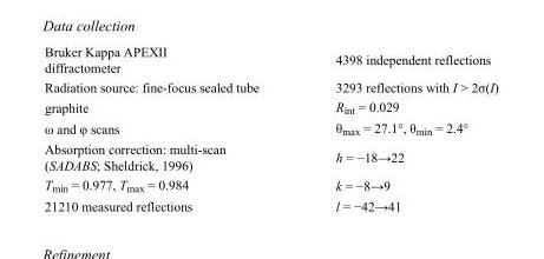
<table><tbody><tr><td>Bruker Kappa APEXII diffractometer</td><td>4398 independent reflections</td></tr><tr><td>Radiation source: fine-focus sealed tube</td><td>3293 reflections with I &gt; 2σ(I)</td></tr><tr><td>graphite</td><td>R<sub>int</sub> = 0.029</td></tr><tr><td>ω and φ scans</td><td>θ<sub>max</sub> = 27.1°, θ<sub>min</sub> = 2.4°</td></tr><tr><td>Absorption correction: multi-scan (SADABS; Sheldrick, 1996)</td><td>h = −18→22</td></tr><tr><td>T<sub>min</sub> = 0.977, T<sub>max</sub> = 0.984</td><td>k = −8→9</td></tr><tr><td>21210 measured reflections</td><td>l = −42→41</td></tr></tbody></table>